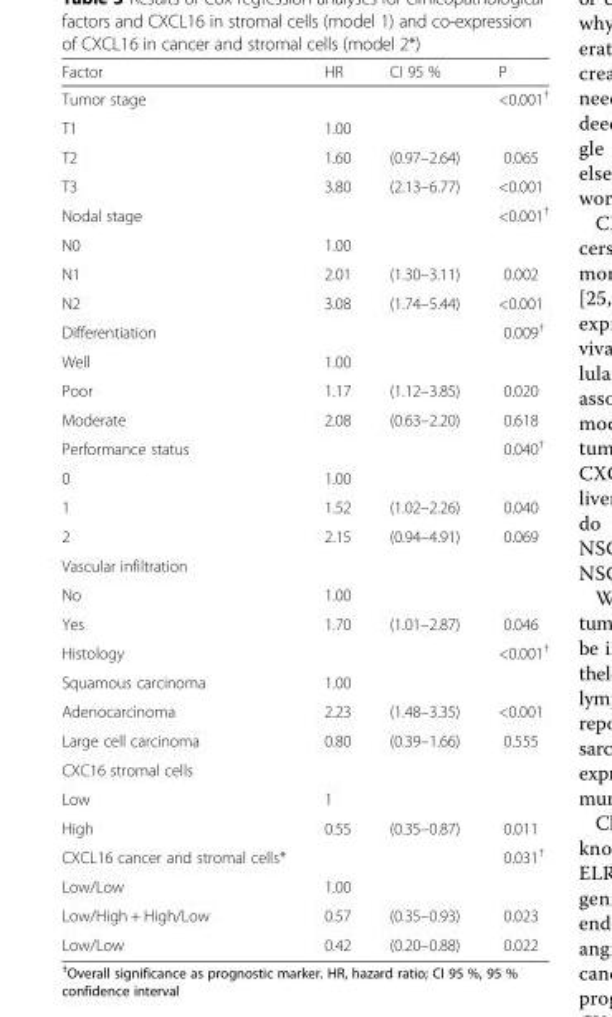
<table><thead><tr><td>Factor</td><td>HR</td><td>CI 95 %</td><td>P</td></tr></thead><tbody><tr><td>Tumor stage</td><td></td><td></td><td>&lt;0.001<sup>†</sup></td></tr><tr><td>T1</td><td>1.00</td><td></td><td></td></tr><tr><td>T2</td><td>1.60</td><td>(0.97–2.64)</td><td>0.065</td></tr><tr><td>T3</td><td>3.80</td><td>(2.13–6.77)</td><td>&lt;0.001</td></tr><tr><td>Nodal stage</td><td></td><td></td><td>&lt;0.001<sup>†</sup></td></tr><tr><td>N0</td><td>1.00</td><td></td><td></td></tr><tr><td>N1</td><td>2.01</td><td>(1.30–3.11)</td><td>0.002</td></tr><tr><td>N2</td><td>3.08</td><td>(1.74–5.44)</td><td>&lt;0.001</td></tr><tr><td>Differentiation</td><td></td><td></td><td>0.009<sup>†</sup></td></tr><tr><td>Well</td><td>1.00</td><td></td><td></td></tr><tr><td>Poor</td><td>1.17</td><td>(1.12–3.85)</td><td>0.020</td></tr><tr><td>Moderate</td><td>2.08</td><td>(0.63–2.20)</td><td>0.618</td></tr><tr><td>Performance status</td><td></td><td></td><td>0.040<sup>†</sup></td></tr><tr><td>0</td><td>1.00</td><td></td><td></td></tr><tr><td>1</td><td>1.52</td><td>(1.02–2.26)</td><td>0.040</td></tr><tr><td>2</td><td>2.15</td><td>(0.94–4.91)</td><td>0.069</td></tr><tr><td colspan="4">Vascular infiltration</td></tr><tr><td>No</td><td>1.00</td><td></td><td></td></tr><tr><td>Yes</td><td>1.70</td><td>(1.01–2.87)</td><td>0.046</td></tr><tr><td>Histology</td><td></td><td></td><td>&lt;0.001<sup>†</sup></td></tr><tr><td>Squamous carcinoma</td><td>1.00</td><td></td><td></td></tr><tr><td>Adenocarcinoma</td><td>2.23</td><td>(1.48–3.35)</td><td>&lt;0.001</td></tr><tr><td>Large cell carcinoma</td><td>0.80</td><td>(0.39–1.66)</td><td>0.555</td></tr><tr><td colspan="4">CXC16 stromal cells</td></tr><tr><td>Low</td><td>1</td><td></td><td></td></tr><tr><td>High</td><td>0.55</td><td>(0.35–0.87)</td><td>0.011</td></tr><tr><td>CXCL16 cancer and stromal cells*</td><td></td><td></td><td>0.031<sup>†</sup></td></tr><tr><td>Low/Low</td><td>1.00</td><td></td><td></td></tr><tr><td>Low/High + High/Low</td><td>0.57</td><td>(0.35–0.93)</td><td>0.023</td></tr><tr><td>Low/Low</td><td>0.42</td><td>(0.20–0.88)</td><td>0.022</td></tr></tbody></table>